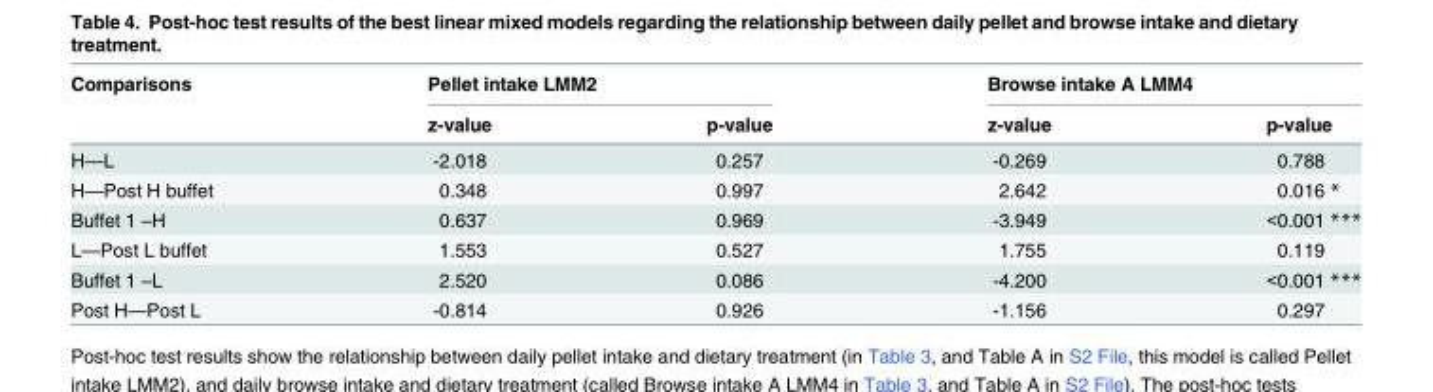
<table><thead><tr><td rowspan="2">Comparisons</td><td colspan="2">Pellet intake LMM2</td><td colspan="2">Browse intake A LMM4</td></tr><tr><td>z-value</td><td>p-value</td><td>z-value</td><td>p-value</td></tr></thead><tbody><tr><td>H—L</td><td>-2.018</td><td>0.257</td><td>-0.269</td><td>0.788</td></tr><tr><td>H—Post H buffet</td><td>0.348</td><td>0.997</td><td>2.642</td><td>0.016 *</td></tr><tr><td>Buffet 1 –H</td><td>0.637</td><td>0.969</td><td>-3.949</td><td>&lt;0.001 ***</td></tr><tr><td>L—Post L buffet</td><td>1.553</td><td>0.527</td><td>1.755</td><td>0.119</td></tr><tr><td>Buffet 1 –L</td><td>2.520</td><td>0.086</td><td>-4.200</td><td>&lt;0.001 ***</td></tr><tr><td>Post H—Post L</td><td>-0.814</td><td>0.926</td><td>-1.156</td><td>0.297</td></tr></tbody></table>